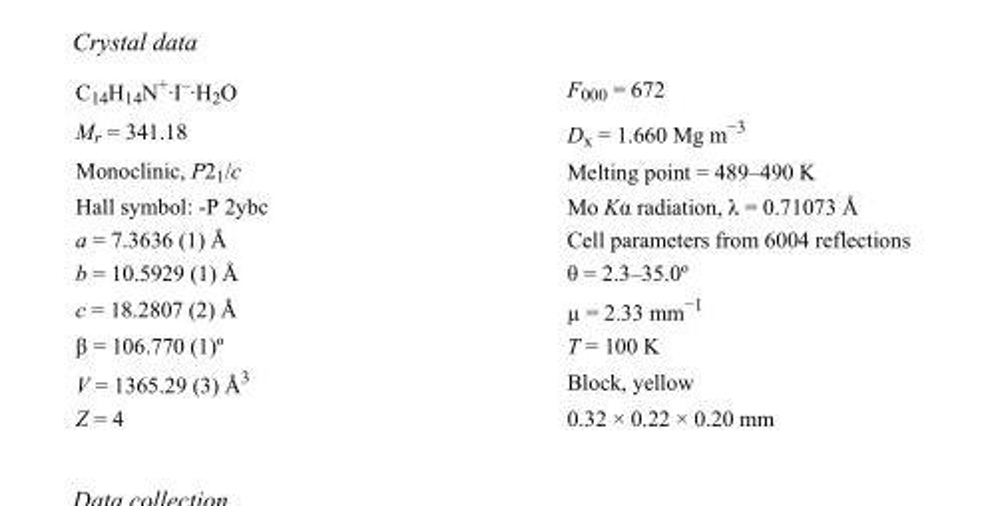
<table><tbody><tr><td>C<sub>14</sub>H<sub>14</sub>N<sup>+</sup>·I<sup>–</sup>·H<sub>2</sub>O</td><td>F000 = 672</td></tr><tr><td>M<sub>r</sub> = 341.18</td><td>D<sub>x</sub> = 1.660 Mg m<sup>−3</sup></td></tr><tr><td>Monoclinic, P2<sub>1</sub>/c</td><td>Melting point = 489–490 K</td></tr><tr><td>Hall symbol: -P 2ybc</td><td>Mo Kα radiation, λ = 0.71073 Å</td></tr><tr><td>a = 7.3636 (1) Å</td><td>Cell parameters from 6004 reflections</td></tr><tr><td>b = 10.5929 (1) Å</td><td>θ = 2.3–35.0º</td></tr><tr><td>c = 18.2807 (2) Å</td><td>µ = 2.33 mm<sup>−1</sup></td></tr><tr><td>β = 106.770 (1)º</td><td>T = 100 K</td></tr><tr><td>V = 1365.29 (3) Å<sup>3</sup></td><td>Block, yellow</td></tr><tr><td>Z = 4</td><td>0.32 × 0.22 × 0.20 mm</td></tr></tbody></table>